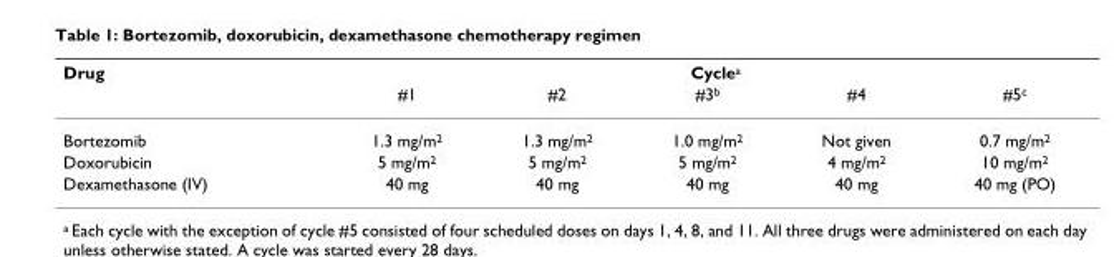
<table><thead><tr><td rowspan="2">Drug</td><td colspan="5">Cycle<sup>a</sup></td></tr><tr><td>#1</td><td>#2</td><td>#3<sup>b</sup></td><td>#4</td><td>#5<sup>c</sup></td></tr></thead><tbody><tr><td>Bortezomib</td><td>1.3 mg/m<sup>2</sup></td><td>1.3 mg/m<sup>2</sup></td><td>1.0 mg/m<sup>2</sup></td><td>Not given</td><td>0.7 mg/m<sup>2</sup></td></tr><tr><td>Doxorubicin</td><td>5 mg/m<sup>2</sup></td><td>5 mg/m<sup>2</sup></td><td>5 mg/m<sup>2</sup></td><td>4 mg/m<sup>2</sup></td><td>10 mg/m<sup>2</sup></td></tr><tr><td>Dexamethasone (IV)</td><td>40 mg</td><td>40 mg</td><td>40 mg</td><td>40 mg</td><td>40 mg (PO)</td></tr></tbody></table>